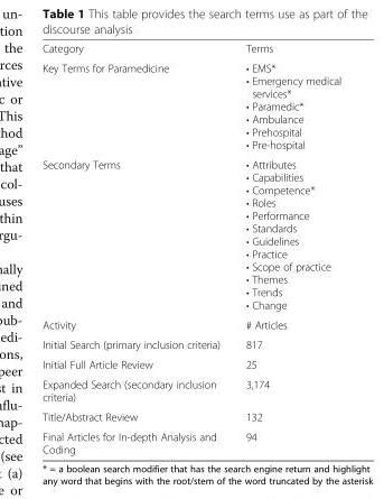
<table><tbody><tr><td>Category</td><td>Terms</td></tr><tr><td>Key Terms for Paramedicine</td><td>• EMS* • Emergency medical services* • Paramedic* • Ambulance • Prehospital • Pre-hospital</td></tr><tr><td>Secondary Terms</td><td>• Attributes • Capabilities • Competence* • Roles • Performance • Standards • Guidelines • Practice • Scope of practice • Themes • Trends • Change</td></tr><tr><td>Activity</td><td># Articles</td></tr><tr><td>Initial Search (primary inclusion criteria)</td><td>817</td></tr><tr><td>Initial Full Article Review</td><td>25</td></tr><tr><td>Expanded Search (secondary inclusion criteria)</td><td>3,174</td></tr><tr><td>Title/Abstract Review</td><td>132</td></tr><tr><td>Final Articles for In-depth Analysis and Coding</td><td>94</td></tr></tbody></table>